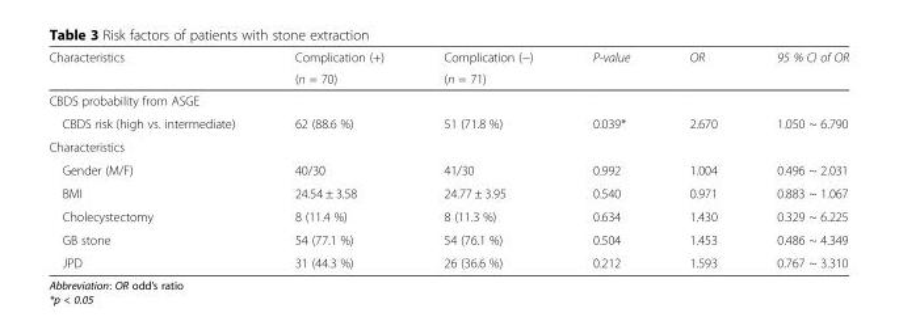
<table><thead><tr><td rowspan="2">Characteristics</td><td rowspan="2">Complication (+) (n = 70)</td><td rowspan="2">Complication (−) (n = 71)</td><td rowspan="2">P-value</td><td rowspan="2">OR</td><td rowspan="2">95 % CI of OR</td></tr><tr></tr></thead><tbody><tr><td colspan="6">CBDS probability from ASGE</td></tr><tr><td>CBDS risk (high vs. intermediate)</td><td>62 (88.6 %)</td><td>51 (71.8 %)</td><td>0.039*</td><td>2.670</td><td>1.050 ~ 6.790</td></tr><tr><td colspan="6">Characteristics</td></tr><tr><td>Gender (M/F)</td><td>40/30</td><td>41/30</td><td>0.992</td><td>1.004</td><td>0.496 ~ 2.031</td></tr><tr><td>BMI</td><td>24.54 ± 3.58</td><td>24.77 ± 3.95</td><td>0.540</td><td>0.971</td><td>0.883 ~ 1.067</td></tr><tr><td>Cholecystectomy</td><td>8 (11.4 %)</td><td>8 (11.3 %)</td><td>0.634</td><td>1.430</td><td>0.329 ~ 6.225</td></tr><tr><td>GB stone</td><td>54 (77.1 %)</td><td>54 (76.1 %)</td><td>0.504</td><td>1.453</td><td>0.486 ~ 4.349</td></tr><tr><td>JPD</td><td>31 (44.3 %)</td><td>26 (36.6 %)</td><td>0.212</td><td>1.593</td><td>0.767 ~ 3.310</td></tr></tbody></table>